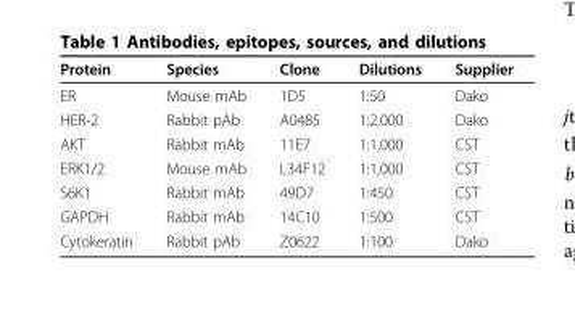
<table><thead><tr><td>Protein</td><td>Species</td><td>Clone</td><td>Dilutions</td><td>Supplier</td></tr></thead><tbody><tr><td>ER</td><td>Mouse mAb</td><td>1D5</td><td>1:50</td><td>Dako</td></tr><tr><td>HER-2</td><td>Rabbit pAb</td><td>A0485</td><td>1:2,000</td><td>Dako</td></tr><tr><td>AKT</td><td>Rabbit mAb</td><td>11E7</td><td>1:1,000</td><td>CST</td></tr><tr><td>ERK1/2</td><td>Mouse mAb</td><td>L34F12</td><td>1:1,000</td><td>CST</td></tr><tr><td>S6K1</td><td>Rabbit mAb</td><td>49D7</td><td>1:450</td><td>CST</td></tr><tr><td>GAPDH</td><td>Rabbit mAb</td><td>14C10</td><td>1:500</td><td>CST</td></tr><tr><td>Cytokeratin</td><td>Rabbit pAb</td><td>Z0622</td><td>1:100</td><td>Dako</td></tr></tbody></table>